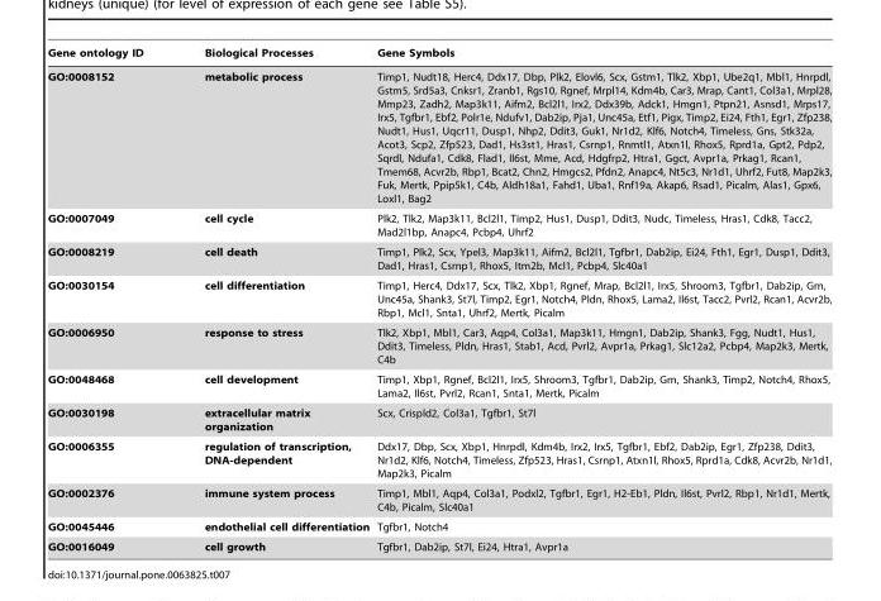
<table><thead><tr><td>Gene ontology ID</td><td>Biological Processes</td><td>Gene Symbols</td></tr></thead><tbody><tr><td>GO:0008152</td><td>metabolic process</td><td>Timp1, Nudt18, Herc4, Ddx17, Dbp, Plk2, Elovl6, Scx, Gstm1, Tlk2, Xbp1, Ube2q1, Mbl1, Hnrpdl, Gstm5, Srd5a3, Cnksr1, Zranb1, Rgs10, Rgnef, Mrpl14, Kdm4b, Car3, Mrap, Cant1, Col3a1, Mrpl28, Mmp23, Zadh2, Map3k11, Aifm2, Bcl2l1, Irx2, Ddx39b, Adck1, Hmgn1, Ptpn21, Asnsd1, Mrps17, Irx5, Tgfbr1, Ebf2, Polr1e, Ndufv1, Dab2ip, Pja1, Unc45a, Etf1, Pigx, Timp2, Ei24, Fth1, Egr1, Zfp238, Nudt1, Hus1, Uqcr11, Dusp1, Nhp2, Ddit3, Guk1, Nr1d2, Klf6, Notch4, Timeless, Gns, Stk32a, Acot3, Scp2, Zfp523, Dad1, Hs3st1, Hras1, Csrnp1, Rnmtl1, Atxn1l, Rhox5, Rprd1a, Gpt2, Pdp2, Sqrdl, Ndufa1, Cdk8, Flad1, Il6st, Mme, Acd, Hdgfrp2, Htra1, Ggct, Avpr1a, Prkag1, Rcan1, Tmem68, Acvr2b, Rbp1, Bcat2, Chn2, Hmgcs2, Pfdn2, Anapc4, Nt5c3, Nr1d1, Uhrf2, Fut8, Map2k3, Fuk, Mertk, Ppip5k1, C4b, Aldh18a1, Fahd1, Uba1, Rnf19a, Akap6, Rsad1, Picalm, Alas1, Gpx6, Loxl1, Bag2</td></tr><tr><td>GO:0007049</td><td>cell cycle</td><td>Plk2, Tlk2, Map3k11, Bcl2l1, Timp2, Hus1, Dusp1, Ddit3, Nudc, Timeless, Hras1, Cdk8, Tacc2, Mad2l1bp, Anapc4, Pcbp4, Uhrf2</td></tr><tr><td>GO:0008219</td><td>cell death</td><td>Timp1, Plk2, Scx, Ypel3, Map3k11, Aifm2, Bcl2l1, Tgfbr1, Dab2ip, Ei24, Fth1, Egr1, Dusp1, Ddit3, Dad1, Hras1, Csrnp1, Rhox5, Itm2b, Mcl1, Pcbp4, Slc40a1</td></tr><tr><td>GO:0030154</td><td>cell differentiation</td><td>Timp1, Herc4, Ddx17, Scx, Tlk2, Xbp1, Rgnef, Mrap, Bcl2l1, Irx5, Shroom3, Tgfbr1, Dab2ip, Grn, Unc45a, Shank3, St7l, Timp2, Egr1, Notch4, Pldn, Rhox5, Lama2, Il6st, Tacc2, Pvrl2, Rcan1, Acvr2b, Rbp1, Mcl1, Snta1, Uhrf2, Mertk, Picalm</td></tr><tr><td>GO:0006950</td><td>response to stress</td><td>Tlk2, Xbp1, Mbl1, Car3, Aqp4, Col3a1, Map3k11, Hmgn1, Dab2ip, Shank3, Fgg, Nudt1, Hus1, Ddit3, Timeless, Pldn, Hras1, Stab1, Acd, Pvrl2, Avpr1a, Prkag1, Slc12a2, Pcbp4, Map2k3, Mertk, C4b</td></tr><tr><td>GO:0048468</td><td>cell development</td><td>Timp1, Xbp1, Rgnef, Bcl2l1, Irx5, Shroom3, Tgfbr1, Dab2ip, Grn, Shank3, Timp2, Notch4, Rhox5, Lama2, Il6st, Pvrl2, Rcan1, Snta1, Mertk, Picalm</td></tr><tr><td>GO:0030198</td><td>extracellular matrix organization</td><td>Scx, Crispld2, Col3a1, Tgfbr1, St7l</td></tr><tr><td>GO:0006355</td><td>regulation of transcription, DNA-dependent</td><td>Ddx17, Dbp, Scx, Xbp1, Hnrpdl, Kdm4b, Irx2, Irx5, Tgfbr1, Ebf2, Dab2ip, Egr1, Zfp238, Ddit3, Nr1d2, Klf6, Notch4, Timeless, Zfp523, Hras1, Csrnp1, Atxn1l, Rhox5, Rprd1a, Cdk8, Acvr2b, Nr1d1, Map2k3, Picalm</td></tr><tr><td>GO:0002376</td><td>immune system process</td><td>Timp1, Mbl1, Aqp4, Col3a1, Podxl2, Tgfbr1, Egr1, H2-Eb1, Pldn, Il6st, Pvrl2, Rbp1, Nr1d1, Mertk, C4b, Picalm, Slc40a1</td></tr><tr><td>GO:0045446</td><td>endothelial cell differentiation</td><td>Tgfbr1, Notch4</td></tr><tr><td>GO:0016049</td><td>cell growth</td><td>Tgfbr1, Dab2ip, St7l, Ei24, Htra1, Avpr1a</td></tr></tbody></table>